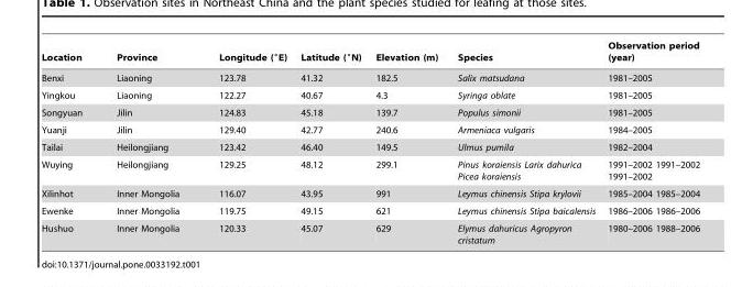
<table><thead><tr><td>Location</td><td>Province</td><td>Longitude (°E)</td><td>Latitude (°N)</td><td>Elevation (m)</td><td>Species</td><td>Observation period (year)</td></tr></thead><tbody><tr><td>Benxi</td><td>Liaoning</td><td>123.78</td><td>41.32</td><td>182.5</td><td>Salix matsudana</td><td>1981–2005</td></tr><tr><td>Yingkou</td><td>Liaoning</td><td>122.27</td><td>40.67</td><td>4.3</td><td>Syringa oblate</td><td>1981–2005</td></tr><tr><td>Songyuan</td><td>Jilin</td><td>124.83</td><td>45.18</td><td>139.7</td><td>Populus simonii</td><td>1981–2005</td></tr><tr><td>Yuanji</td><td>Jilin</td><td>129.40</td><td>42.77</td><td>240.6</td><td>Armeniaca vulgaris</td><td>1984–2005</td></tr><tr><td>Tailai</td><td>Heilongjiang</td><td>123.42</td><td>46.40</td><td>149.5</td><td>Ulmus pumila</td><td>1982–2004</td></tr><tr><td>Wuying</td><td>Heilongjiang</td><td>129.25</td><td>48.12</td><td>299.1</td><td>Pinus koraiensis Larix dahurica Picea koraiensis</td><td>1991–2002 1991–2002 1991–2002</td></tr><tr><td>Xilinhot</td><td>Inner Mongolia</td><td>116.07</td><td>43.95</td><td>991</td><td>Leymus chinensis Stipa krylovii</td><td>1985–2004 1985–2004</td></tr><tr><td>Ewenke</td><td>Inner Mongolia</td><td>119.75</td><td>49.15</td><td>621</td><td>Leymus chinensis Stipa baicalensis</td><td>1986–2006 1986–2006</td></tr><tr><td>Hushuo</td><td>Inner Mongolia</td><td>120.33</td><td>45.07</td><td>629</td><td>Elymus dahuricus Agropyron cristatum</td><td>1980–2006 1988–2006</td></tr></tbody></table>